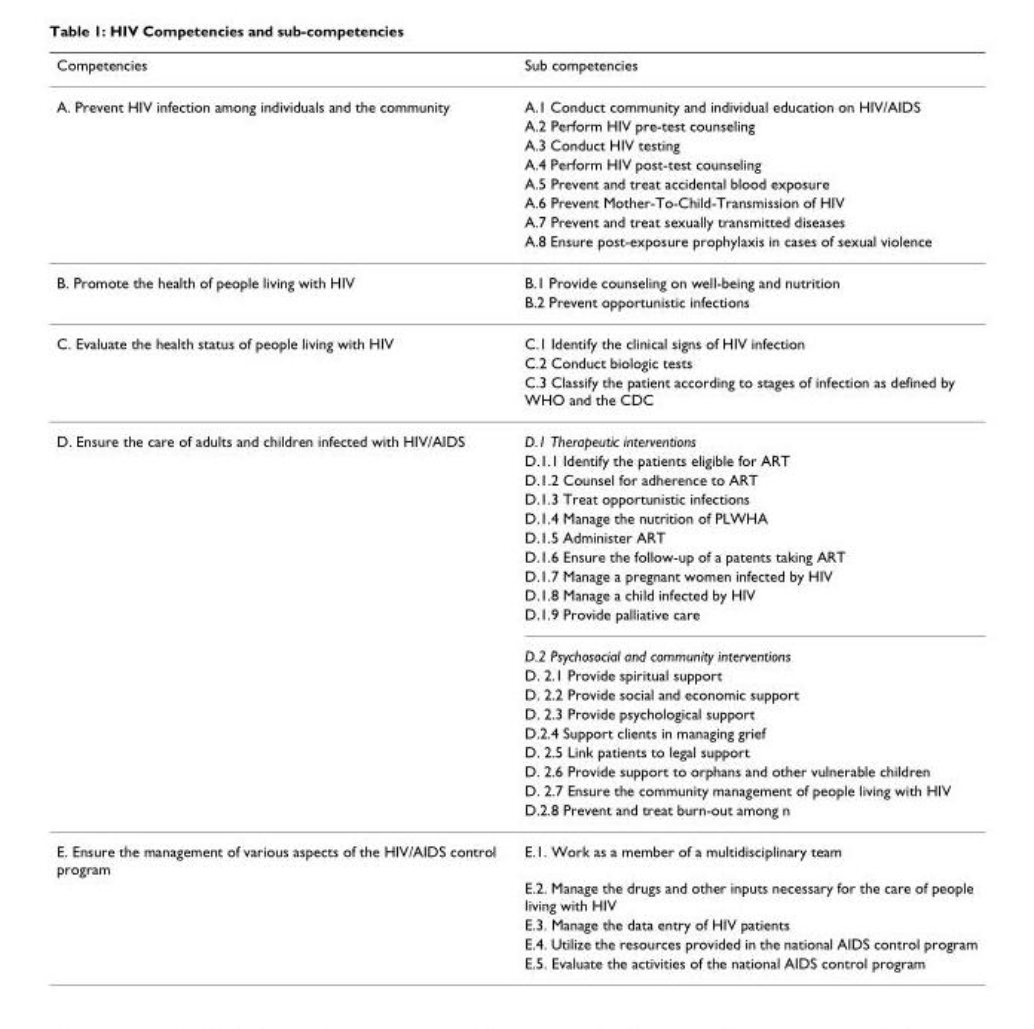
<table><thead><tr><td>Competencies</td><td>Sub competencies</td></tr></thead><tbody><tr><td rowspan="8">A. Prevent HIV infection among individuals and the community</td><td>A.1 Conduct community and individual education on HIV/AIDS</td></tr><tr><td>A.2 Perform HIV pre-test counseling</td></tr><tr><td>A.3 Conduct HIV testing</td></tr><tr><td>A.4 Perform HIV post-test counseling</td></tr><tr><td>A.5 Prevent and treat accidental blood exposure</td></tr><tr><td>A.6 Prevent Mother-To-Child-Transmission of HIV</td></tr><tr><td>A.7 Prevent and treat sexually transmitted diseases</td></tr><tr><td>A.8 Ensure post-exposure prophylaxis in cases of sexual violence</td></tr><tr><td rowspan="2">B. Promote the health of people living with HIV</td><td>B.1 Provide counseling on well-being and nutrition</td></tr><tr><td>B.2 Prevent opportunistic infections</td></tr><tr><td rowspan="3">C. Evaluate the health status of people living with HIV</td><td>C.1 Identify the clinical signs of HIV infection</td></tr><tr><td>C.2 Conduct biologic tests</td></tr><tr><td>C.3 Classify the patient according to stages of infection as defined by WHO and the CDC</td></tr><tr><td rowspan="19">D. Ensure the care of adults and children infected with HIV/AIDS</td><td>D.1 Therapeutic interventions</td></tr><tr><td>D.1.1 Identify the patients eligible for ART</td></tr><tr><td>D.1.2 Counsel for adherence to ART</td></tr><tr><td>D.1.3 Treat opportunistic infections</td></tr><tr><td>D.1.4 Manage the nutrition of PLWHA</td></tr><tr><td>D.1.5 Administer ART</td></tr><tr><td>D.1.6 Ensure the follow-up of a patents taking ART</td></tr><tr><td>D.1.7 Manage a pregnant women infected by HIV</td></tr><tr><td>D.1.8 Manage a child infected by HIV</td></tr><tr><td>D.1.9 Provide palliative care</td></tr><tr><td>D.2 Psychosocial and community interventions</td></tr><tr><td>D. 2.1 Provide spiritual support</td></tr><tr><td>D. 2.2 Provide social and economic support</td></tr><tr><td>D. 2.3 Provide psychological support</td></tr><tr><td>D.2.4 Support clients in managing grief</td></tr><tr><td>D. 2.5 Link patients to legal support</td></tr><tr><td>D. 2.6 Provide support to orphans and other vulnerable children</td></tr><tr><td>D. 2.7 Ensure the community management of people living with HIV</td></tr><tr><td>D.2.8 Prevent and treat burn-out among n</td></tr><tr><td rowspan="5">E. Ensure the management of various aspects of the HIV/AIDS control program</td><td>E.1. Work as a member of a multidisciplinary team</td></tr><tr><td>E.2. Manage the drugs and other inputs necessary for the care of people living with HIV</td></tr><tr><td>E.3. Manage the data entry of HIV patients</td></tr><tr><td>E.4. Utilize the resources provided in the national AIDS control program</td></tr><tr><td>E.5. Evaluate the activities of the national AIDS control program</td></tr></tbody></table>